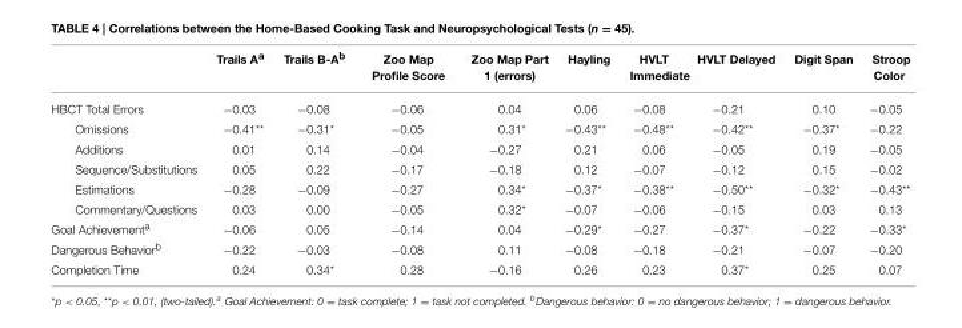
<table><thead><tr><td></td><td>Trails A<sup>a</sup></td><td>Trails B-A<sup>b</sup></td><td>Zoo Map Profile Score</td><td>Zoo Map Part 1 (errors)</td><td>Hayling</td><td>HVLT Immediate</td><td>HVLT Delayed</td><td>Digit Span</td><td>Stroop Color</td></tr></thead><tbody><tr><td>HBCT Total Errors</td><td>−0.03</td><td>−0.08</td><td>−0.06</td><td>0.04</td><td>0.06</td><td>−0.08</td><td>−0.21</td><td>0.10</td><td>−0.05</td></tr><tr><td>Omissions</td><td>−0.41**</td><td>−0.31*</td><td>−0.05</td><td>0.31*</td><td>−0.43**</td><td>−0.48**</td><td>−0.42**</td><td>−0.37*</td><td>−0.22</td></tr><tr><td>Additions</td><td>0.01</td><td>0.14</td><td>−0.04</td><td>−0.27</td><td>0.21</td><td>0.06</td><td>−0.05</td><td>0.19</td><td>−0.05</td></tr><tr><td>Sequence/Substitutions</td><td>0.05</td><td>0.22</td><td>−0.17</td><td>−0.18</td><td>0.12</td><td>−0.07</td><td>−0.12</td><td>0.15</td><td>−0.02</td></tr><tr><td>Estimations</td><td>−0.28</td><td>−0.09</td><td>−0.27</td><td>0.34*</td><td>−0.37*</td><td>−0.38**</td><td>−0.50**</td><td>−0.32*</td><td>−0.43**</td></tr><tr><td>Commentary/Questions</td><td>0.03</td><td>0.00</td><td>−0.05</td><td>0.32*</td><td>−0.07</td><td>−0.06</td><td>−0.15</td><td>0.03</td><td>0.13</td></tr><tr><td>Goal Achievement<sup>a</sup></td><td>−0.06</td><td>0.05</td><td>−0.14</td><td>0.04</td><td>−0.29*</td><td>−0.27</td><td>−0.37*</td><td>−0.22</td><td>−0.33*</td></tr><tr><td>Dangerous Behavior<sup>b</sup></td><td>−0.22</td><td>−0.03</td><td>−0.08</td><td>0.11</td><td>−0.08</td><td>−0.18</td><td>−0.21</td><td>−0.07</td><td>−0.20</td></tr><tr><td>Completion Time</td><td>0.24</td><td>0.34*</td><td>0.28</td><td>−0.16</td><td>0.26</td><td>0.23</td><td>0.37*</td><td>0.25</td><td>0.07</td></tr></tbody></table>